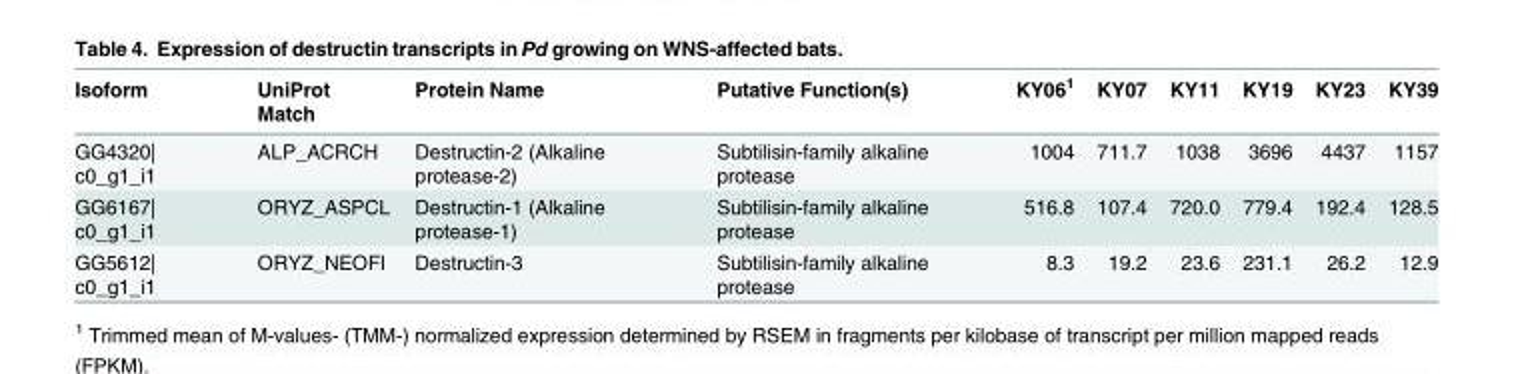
<table><thead><tr><td>Isoform</td><td>UniProt Match</td><td>Protein Name</td><td>Putative Function(s)</td><td>KY06<sup>1</sup></td><td>KY07</td><td>KY11</td><td>KY19</td><td>KY23</td><td>KY39</td></tr></thead><tbody><tr><td>GG4320| c0_g1_i1</td><td>ALP_ACRCH</td><td>Destructin-2 (Alkaline protease-2)</td><td>Subtilisin-family alkaline protease</td><td>1004</td><td>711.7</td><td>1038</td><td>3696</td><td>4437</td><td>1157</td></tr><tr><td>GG6167| c0_g1_i1</td><td>ORYZ_ASPCL</td><td>Destructin-1 (Alkaline protease-1)</td><td>Subtilisin-family alkaline protease</td><td>516.8</td><td>107.4</td><td>720.0</td><td>779.4</td><td>192.4</td><td>128.5</td></tr><tr><td>GG5612| c0_g1_i1</td><td>ORYZ_NEOFI</td><td>Destructin-3</td><td>Subtilisin-family alkaline protease</td><td>8.3</td><td>19.2</td><td>23.6</td><td>231.1</td><td>26.2</td><td>12.9</td></tr></tbody></table>